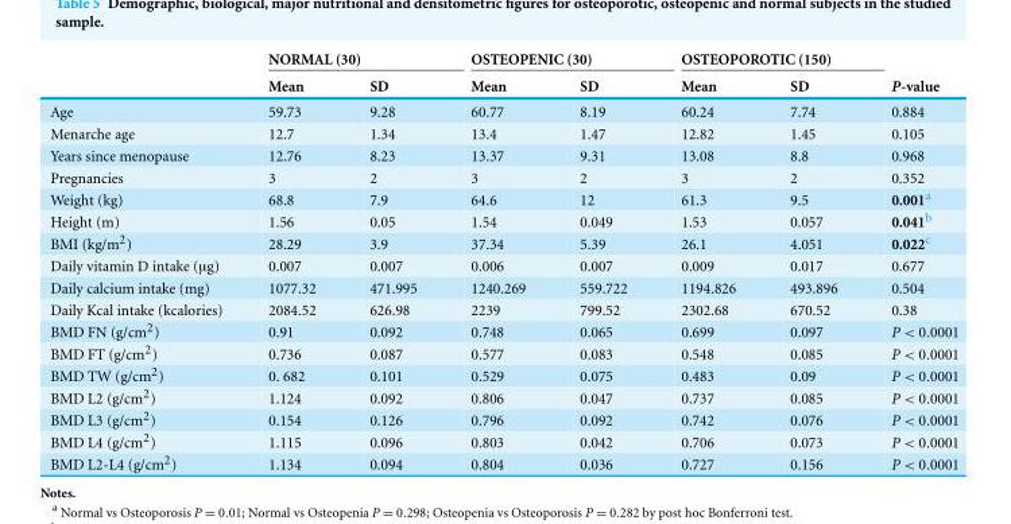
<table><thead><tr><td rowspan="2"></td><td colspan="2">NORMAL (30)</td><td colspan="2">OSTEOPENIC (30)</td><td colspan="2">OSTEOPOROTIC (150)</td><td rowspan="2">P-value</td></tr><tr><td>Mean</td><td>SD</td><td>Mean</td><td>SD</td><td>Mean</td><td>SD</td></tr></thead><tbody><tr><td>Age</td><td>59.73</td><td>9.28</td><td>60.77</td><td>8.19</td><td>60.24</td><td>7.74</td><td>0.884</td></tr><tr><td>Menarche age</td><td>12.7</td><td>1.34</td><td>13.4</td><td>1.47</td><td>12.82</td><td>1.45</td><td>0.105</td></tr><tr><td>Years since menopause</td><td>12.76</td><td>8.23</td><td>13.37</td><td>9.31</td><td>13.08</td><td>8.8</td><td>0.968</td></tr><tr><td>Pregnancies</td><td>3</td><td>2</td><td>3</td><td>2</td><td>3</td><td>2</td><td>0.352</td></tr><tr><td>Weight (kg)</td><td>68.8</td><td>7.9</td><td>64.6</td><td>12</td><td>61.3</td><td>9.5</td><td>0.001<sup>a</sup></td></tr><tr><td>Height (m)</td><td>1.56</td><td>0.05</td><td>1.54</td><td>0.049</td><td>1.53</td><td>0.057</td><td>0.041<sup>b</sup></td></tr><tr><td>BMI (kg/m<sup>2</sup>)</td><td>28.29</td><td>3.9</td><td>37.34</td><td>5.39</td><td>26.1</td><td>4.051</td><td>0.022<sup>c</sup></td></tr><tr><td>Daily vitamin D intake (µg)</td><td>0.007</td><td>0.007</td><td>0.006</td><td>0.007</td><td>0.009</td><td>0.017</td><td>0.677</td></tr><tr><td>Daily calcium intake (mg)</td><td>1077.32</td><td>471.995</td><td>1240.269</td><td>559.722</td><td>1194.826</td><td>493.896</td><td>0.504</td></tr><tr><td>Daily Kcal intake (kcalories)</td><td>2084.52</td><td>626.98</td><td>2239</td><td>799.52</td><td>2302.68</td><td>670.52</td><td>0.38</td></tr><tr><td>BMD FN (g/cm<sup>2</sup>)</td><td>0.91</td><td>0.092</td><td>0.748</td><td>0.065</td><td>0.699</td><td>0.097</td><td>P &lt; 0.0001</td></tr><tr><td>BMD FT (g/cm<sup>2</sup>)</td><td>0.736</td><td>0.087</td><td>0.577</td><td>0.083</td><td>0.548</td><td>0.085</td><td>P &lt; 0.0001</td></tr><tr><td>BMD TW (g/cm<sup>2</sup>)</td><td>0. 682</td><td>0.101</td><td>0.529</td><td>0.075</td><td>0.483</td><td>0.09</td><td>P &lt; 0.0001</td></tr><tr><td>BMD L2 (g/cm<sup>2</sup>)</td><td>1.124</td><td>0.092</td><td>0.806</td><td>0.047</td><td>0.737</td><td>0.085</td><td>P &lt; 0.0001</td></tr><tr><td>BMD L3 (g/cm<sup>2</sup>)</td><td>0.154</td><td>0.126</td><td>0.796</td><td>0.092</td><td>0.742</td><td>0.076</td><td>P &lt; 0.0001</td></tr><tr><td>BMD L4 (g/cm<sup>2</sup>)</td><td>1.115</td><td>0.096</td><td>0.803</td><td>0.042</td><td>0.706</td><td>0.073</td><td>P &lt; 0.0001</td></tr><tr><td>BMD L2-L4 (g/cm<sup>2</sup>)</td><td>1.134</td><td>0.094</td><td>0.804</td><td>0.036</td><td>0.727</td><td>0.156</td><td>P &lt; 0.0001</td></tr></tbody></table>